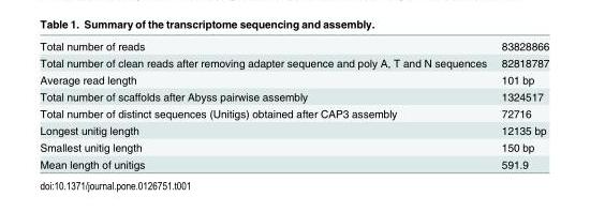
<table><tbody><tr><td>Total number of reads</td><td>83828866</td></tr><tr><td>Total number of clean reads after removing adapter sequence and poly A, T and N sequences</td><td>82818787</td></tr><tr><td>Average read length</td><td>101 bp</td></tr><tr><td>Total number of scaffolds after Abyss pairwise assembly</td><td>1324517</td></tr><tr><td>Total number of distinct sequences (Unitigs) obtained after CAP3 assembly</td><td>72716</td></tr><tr><td>Longest unitig length</td><td>12135 bp</td></tr><tr><td>Smallest unitig length</td><td>150 bp</td></tr><tr><td>Mean length of unitigs</td><td>591.9</td></tr></tbody></table>